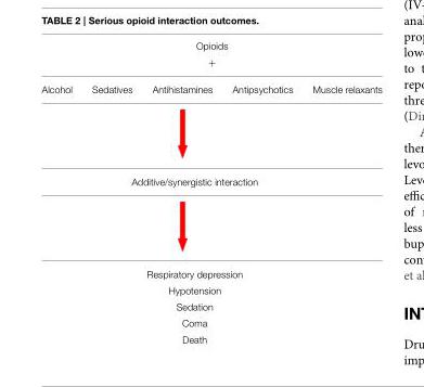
<table><tbody><tr><td colspan="5">Opioids</td></tr><tr><td colspan="5">+</td></tr><tr><td>Alcohol</td><td>Sedatives</td><td>Antihistamines</td><td>Antipsychotics</td><td>Muscle relaxants</td></tr><tr><td colspan="5">Additive/synergistic interaction</td></tr><tr><td colspan="5">Respiratory depression</td></tr><tr><td colspan="5">Hypotension</td></tr><tr><td colspan="5">Sedation</td></tr><tr><td colspan="5">Coma</td></tr><tr><td colspan="5">Death</td></tr></tbody></table>